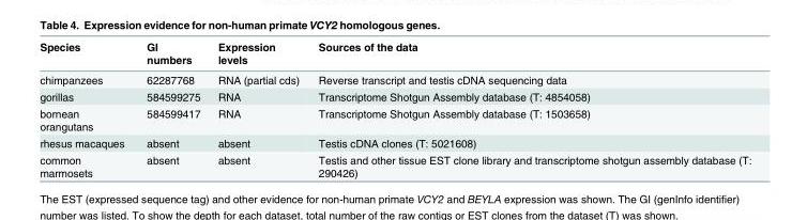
<table><thead><tr><td>Species</td><td>GI numbers</td><td>Expression levels</td><td>Sources of the data</td></tr></thead><tbody><tr><td>chimpanzees</td><td>62287768</td><td>RNA (partial cds)</td><td>Reverse transcript and testis cDNA sequencing data</td></tr><tr><td>gorillas</td><td>584599275</td><td>RNA</td><td>Transcriptome Shotgun Assembly database (T: 4854058)</td></tr><tr><td>bornean orangutans</td><td>584599417</td><td>RNA</td><td>Transcriptome Shotgun Assembly database (T: 1503658)</td></tr><tr><td>rhesus macaques</td><td>absent</td><td>absent</td><td>Testis cDNA clones (T: 5021608)</td></tr><tr><td>common marmosets</td><td>absent</td><td>absent</td><td>Testis and other tissue EST clone library and transcriptome shotgun assembly database (T: 290426)</td></tr></tbody></table>